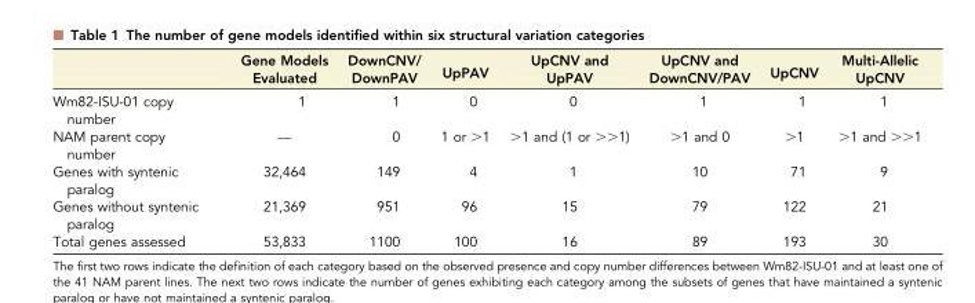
<table><thead><tr><td></td><td>Gene Models Evaluated</td><td>DownCNV/ DownPAV</td><td>UpPAV</td><td>UpCNV and UpPAV</td><td>UpCNV and DownCNV/PAV</td><td>UpCNV</td><td>Multi-Allelic UpCNV</td></tr></thead><tbody><tr><td>Wm82-ISU-01 copy number</td><td>1</td><td>1</td><td>0</td><td>0</td><td>1</td><td>1</td><td>1</td></tr><tr><td>NAM parent copy number</td><td>—</td><td>0</td><td>1 or &gt;1</td><td>&gt;1 and (1 or &gt;&gt;1)</td><td>&gt;1 and 0</td><td>&gt;1</td><td>&gt;1 and &gt;&gt;1</td></tr><tr><td>Genes with syntenic paralog</td><td>32,464</td><td>149</td><td>4</td><td>1</td><td>10</td><td>71</td><td>9</td></tr><tr><td>Genes without syntenic paralog</td><td>21,369</td><td>951</td><td>96</td><td>15</td><td>79</td><td>122</td><td>21</td></tr><tr><td>Total genes assessed</td><td>53,833</td><td>1100</td><td>100</td><td>16</td><td>89</td><td>193</td><td>30</td></tr></tbody></table>